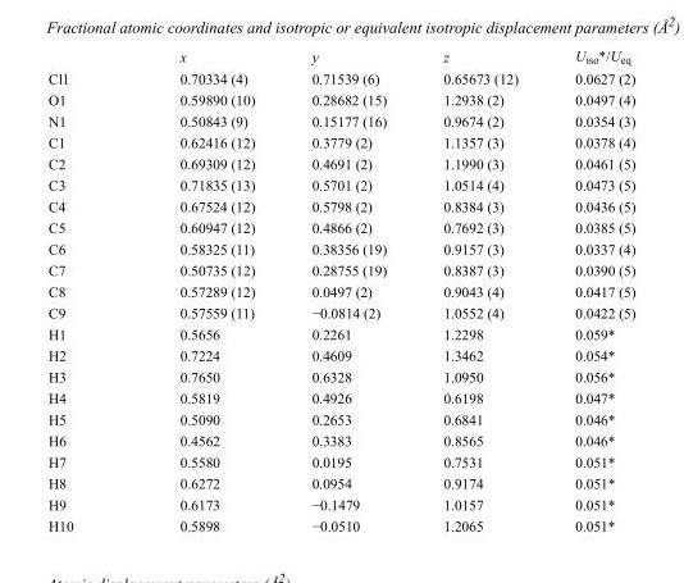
<table><thead><tr><td></td><td>x</td><td>y</td><td>z</td><td>U<sub>iso</sub>*/U<sub>eq</sub></td></tr></thead><tbody><tr><td>Cl1</td><td>0.70334 (4)</td><td>0.71539 (6)</td><td>0.65673 (12)</td><td>0.0627 (2)</td></tr><tr><td>O1</td><td>0.59890 (10)</td><td>0.28682 (15)</td><td>1.2938 (2)</td><td>0.0497 (4)</td></tr><tr><td>N1</td><td>0.50843 (9)</td><td>0.15177 (16)</td><td>0.9674 (2)</td><td>0.0354 (3)</td></tr><tr><td>C1</td><td>0.62416 (12)</td><td>0.3779 (2)</td><td>1.1357 (3)</td><td>0.0378 (4)</td></tr><tr><td>C2</td><td>0.69309 (12)</td><td>0.4691 (2)</td><td>1.1990 (3)</td><td>0.0461 (5)</td></tr><tr><td>C3</td><td>0.71835 (13)</td><td>0.5701 (2)</td><td>1.0514 (4)</td><td>0.0473 (5)</td></tr><tr><td>C4</td><td>0.67524 (12)</td><td>0.5798 (2)</td><td>0.8384 (3)</td><td>0.0436 (5)</td></tr><tr><td>C5</td><td>0.60947 (12)</td><td>0.4866 (2)</td><td>0.7692 (3)</td><td>0.0385 (5)</td></tr><tr><td>C6</td><td>0.58325 (11)</td><td>0.38356 (19)</td><td>0.9157 (3)</td><td>0.0337 (4)</td></tr><tr><td>C7</td><td>0.50735 (12)</td><td>0.28755 (19)</td><td>0.8387 (3)</td><td>0.0390 (5)</td></tr><tr><td>C8</td><td>0.57289 (12)</td><td>0.0497 (2)</td><td>0.9043 (4)</td><td>0.0417 (5)</td></tr><tr><td>C9</td><td>0.57559 (11)</td><td>−0.0814 (2)</td><td>1.0552 (4)</td><td>0.0422 (5)</td></tr><tr><td>H1</td><td>0.5656</td><td>0.2261</td><td>1.2298</td><td>0.059*</td></tr><tr><td>H2</td><td>0.7224</td><td>0.4609</td><td>1.3462</td><td>0.054*</td></tr><tr><td>H3</td><td>0.7650</td><td>0.6328</td><td>1.0950</td><td>0.056*</td></tr><tr><td>H4</td><td>0.5819</td><td>0.4926</td><td>0.6198</td><td>0.047*</td></tr><tr><td>H5</td><td>0.5090</td><td>0.2653</td><td>0.6841</td><td>0.046*</td></tr><tr><td>H6</td><td>0.4562</td><td>0.3383</td><td>0.8565</td><td>0.046*</td></tr><tr><td>H7</td><td>0.5580</td><td>0.0195</td><td>0.7531</td><td>0.051*</td></tr><tr><td>H8</td><td>0.6272</td><td>0.0954</td><td>0.9174</td><td>0.051*</td></tr><tr><td>H9</td><td>0.6173</td><td>−0.1479</td><td>1.0157</td><td>0.051*</td></tr><tr><td>H10</td><td>0.5898</td><td>−0.0510</td><td>1.2065</td><td>0.051*</td></tr></tbody></table>